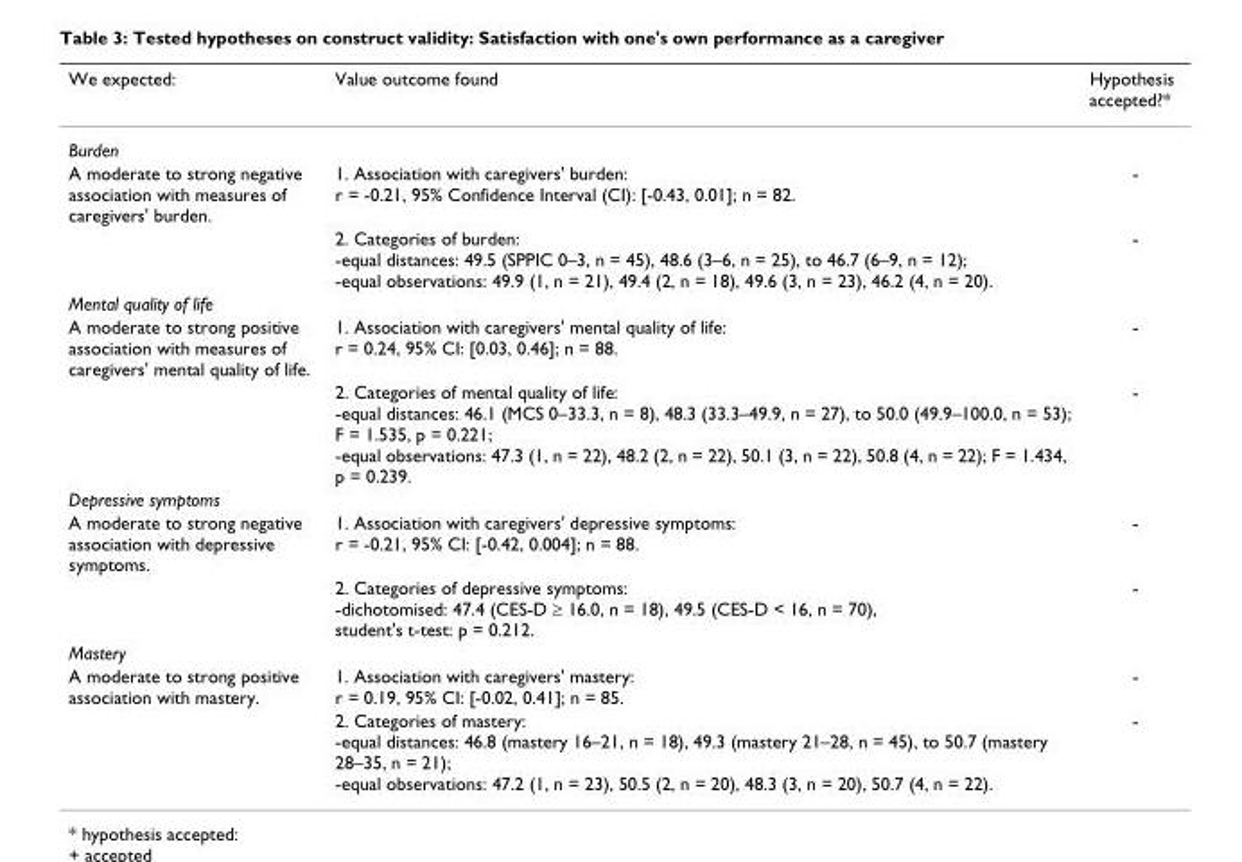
<table><thead><tr><td>We expected:</td><td>Value outcome found</td><td>Hypothesis accepted?*</td></tr></thead><tbody><tr><td colspan="3">Burden</td></tr><tr><td rowspan="2">A moderate to strong negative association with measures of caregivers&#x27; burden.</td><td>1. Association with caregivers&#x27; burden: r = -0.21, 95% Confidence Interval (CI): [-0.43, 0.01]; n = 82.</td><td>-</td></tr><tr><td>2. Categories of burden: -equal distances: 49.5 (SPPIC 0–3, n = 45), 48.6 (3–6, n = 25), to 46.7 (6–9, n = 12); -equal observations: 49.9 (1, n = 21), 49.4 (2, n = 18), 49.6 (3, n = 23), 46.2 (4, n = 20).</td><td>-</td></tr><tr><td colspan="3">Mental quality of life</td></tr><tr><td rowspan="2">A moderate to strong positive association with measures of caregivers&#x27; mental quality of life.</td><td>1. Association with caregivers&#x27; mental quality of life: r = 0.24, 95% CI: [0.03, 0.46]; n = 88.</td><td>-</td></tr><tr><td>2. Categories of mental quality of life: -equal distances: 46.1 (MCS 0–33.3, n = 8), 48.3 (33.3–49.9, n = 27), to 50.0 (49.9–100.0, n = 53); F = 1.535, p = 0.221; -equal observations: 47.3 (1, n = 22), 48.2 (2, n = 22), 50.1 (3, n = 22), 50.8 (4, n = 22); F = 1.434, p = 0.239.</td><td>-</td></tr><tr><td colspan="3">Depressive symptoms</td></tr><tr><td rowspan="2">A moderate to strong negative association with depressive symptoms.</td><td>1. Association with caregivers&#x27; depressive symptoms: r = -0.21, 95% CI: [-0.42, 0.004]; n = 88.</td><td>-</td></tr><tr><td>2. Categories of depressive symptoms: -dichotomised: 47.4 (CES-D ≥ 16.0, n = 18), 49.5 (CES-D &lt; 16, n = 70), student&#x27;s t-test: p = 0.212.</td><td>-</td></tr><tr><td colspan="3">Mastery</td></tr><tr><td rowspan="2">A moderate to strong positive association with mastery.</td><td>1. Association with caregivers&#x27; mastery: r = 0.19, 95% CI: [-0.02, 0.41]; n = 85.</td><td>-</td></tr><tr><td>2. Categories of mastery: -equal distances: 46.8 (mastery 16–21, n = 18), 49.3 (mastery 21–28, n = 45), to 50.7 (mastery 28–35, n = 21); -equal observations: 47.2 (1, n = 23), 50.5 (2, n = 20), 48.3 (3, n = 20), 50.7 (4, n = 22).</td><td>-</td></tr></tbody></table>